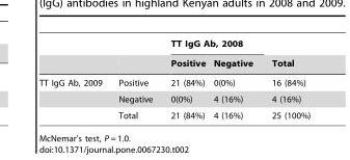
<table><thead><tr><td rowspan="2"></td><td rowspan="2"></td><td colspan="2">TT IgG Ab, 2008</td><td rowspan="2">Total</td></tr><tr><td>Positive</td><td>Negative</td></tr></thead><tbody><tr><td rowspan="3">TT IgG Ab, 2009</td><td>Positive</td><td>21 (84%)</td><td>0(0%)</td><td>16 (84%)</td></tr><tr><td>Negative</td><td>0(0%)</td><td>4 (16%)</td><td>4 (16%)</td></tr><tr><td>Total</td><td>21 (84%)</td><td>4 (16%)</td><td>25 (100%)</td></tr></tbody></table>